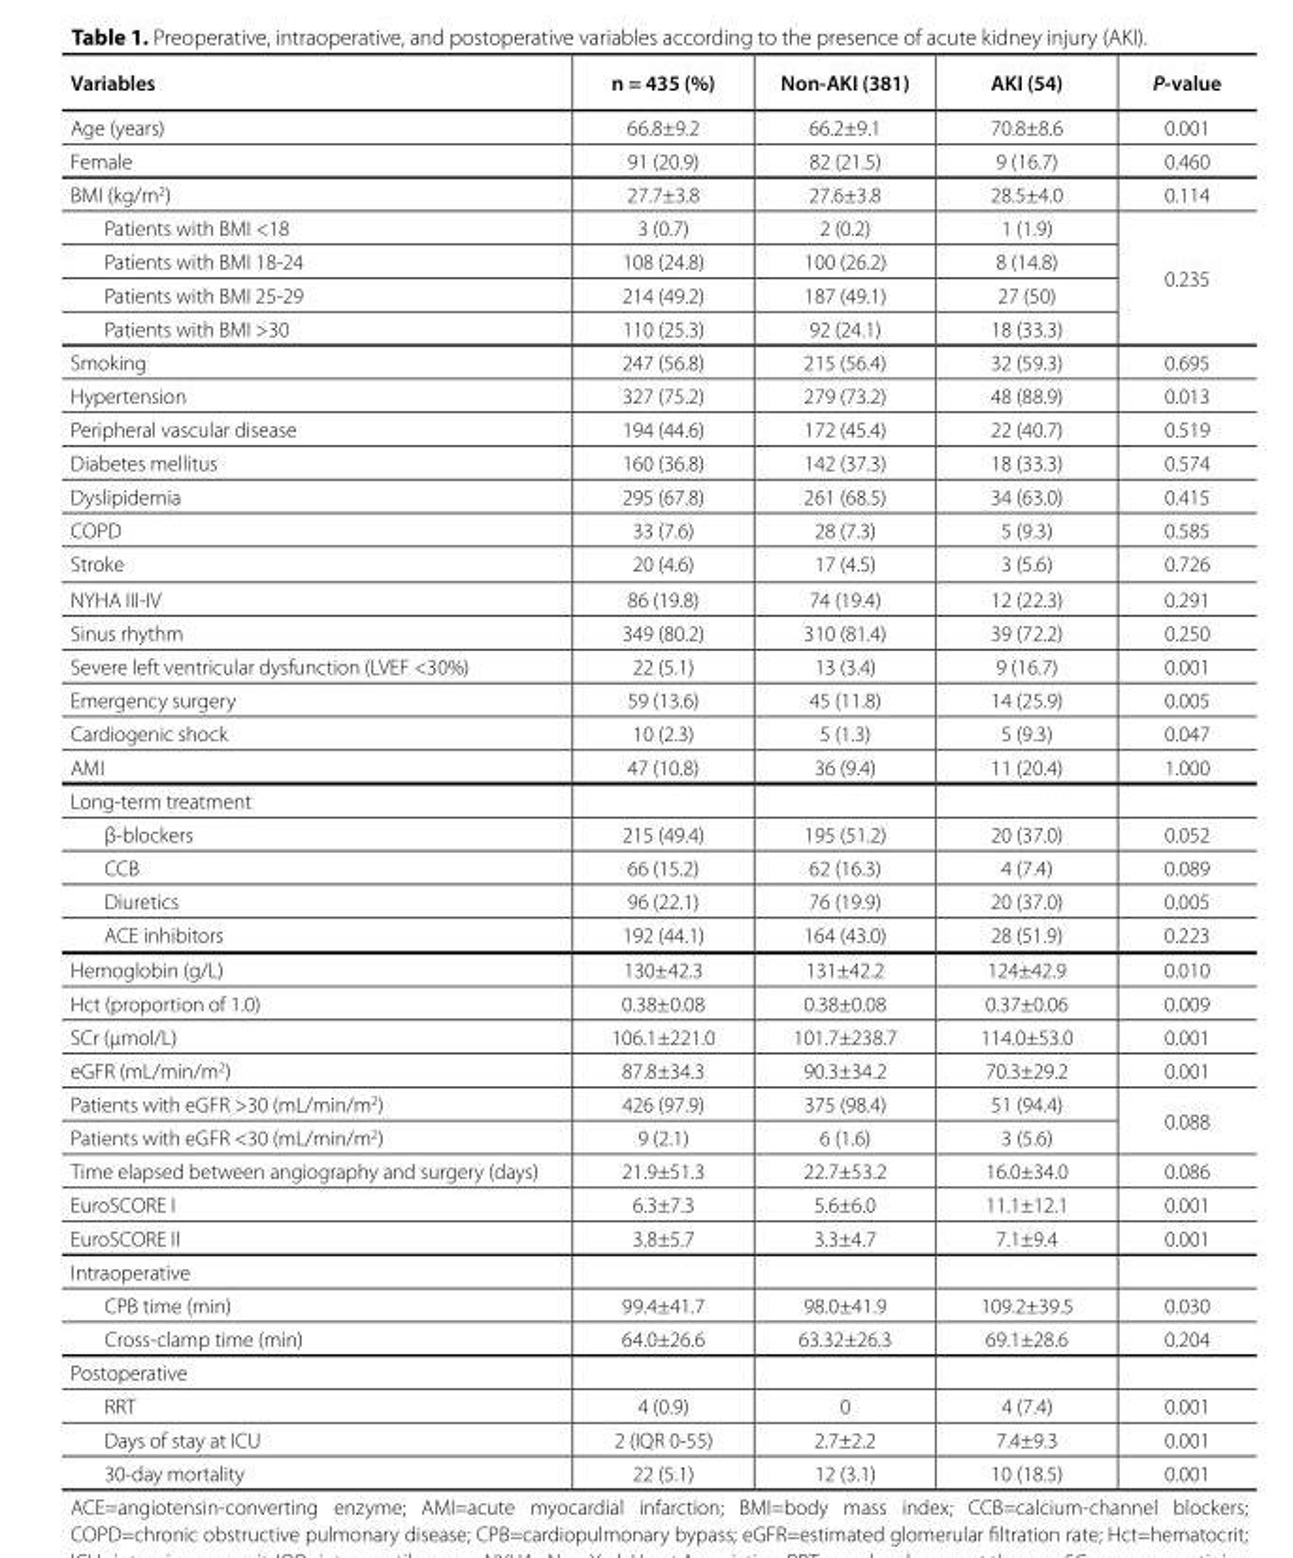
<table><thead><tr><td>Variables</td><td>n = 435 (%)</td><td>Non-AKI (381)</td><td>AKI (54)</td><td>P-value</td></tr></thead><tbody><tr><td>Age (years)</td><td>66.8±9.2</td><td>66.2±9.1</td><td>70.8±8.6</td><td>0.001</td></tr><tr><td>Female</td><td>91 (20.9)</td><td>82 (21.5)</td><td>9 (16.7)</td><td>0.460</td></tr><tr><td>BMI (kg/m<sup>2</sup>)</td><td>27.7±3.8</td><td>27.6±3.8</td><td>28.5±4.0</td><td>0.114</td></tr><tr><td>Patients with BMI &lt;18</td><td>3 (0.7)</td><td>2 (0.2)</td><td>1 (1.9)</td><td rowspan="4">0.235</td></tr><tr><td>Patients with BMI 18-24</td><td>108 (24.8)</td><td>100 (26.2)</td><td>8 (14.8)</td></tr><tr><td>Patients with BMI 25-29</td><td>214 (49.2)</td><td>187 (49.1)</td><td>27 (50)</td></tr><tr><td>Patients with BMI &gt;30</td><td>110 (25.3)</td><td>92 (24.1)</td><td>18 (33.3)</td></tr><tr><td>Smoking</td><td>247 (56.8)</td><td>215 (56.4)</td><td>32 (59.3)</td><td>0.695</td></tr><tr><td>Hypertension</td><td>327 (75.2)</td><td>279 (73.2)</td><td>48 (88.9)</td><td>0.013</td></tr><tr><td>Peripheral vascular disease</td><td>194 (44.6)</td><td>172 (45.4)</td><td>22 (40.7)</td><td>0.519</td></tr><tr><td>Diabetes mellitus</td><td>160 (36.8)</td><td>142 (37.3)</td><td>18 (33.3)</td><td>0.574</td></tr><tr><td>Dyslipidemia</td><td>295 (67.8)</td><td>261 (68.5)</td><td>34 (63.0)</td><td>0.415</td></tr><tr><td>COPD</td><td>33 (7.6)</td><td>28 (7.3)</td><td>5 (9.3)</td><td>0.585</td></tr><tr><td>Stroke</td><td>20 (4.6)</td><td>17 (4.5)</td><td>3 (5.6)</td><td>0.726</td></tr><tr><td>NYHA III-IV</td><td>86 (19.8)</td><td>74 (19.4)</td><td>12 (22.3)</td><td>0.291</td></tr><tr><td>Sinus rhythm</td><td>349 (80.2)</td><td>310 (81.4)</td><td>39 (72.2)</td><td>0.250</td></tr><tr><td>Severe left ventricular dysfunction (LVEF &lt;30%)</td><td>22 (5.1)</td><td>13 (3.4)</td><td>9 (16.7)</td><td>0.001</td></tr><tr><td>Emergency surgery</td><td>59 (13.6)</td><td>45 (11.8)</td><td>14 (25.9)</td><td>0.005</td></tr><tr><td>Cardiogenic shock</td><td>10 (2.3)</td><td>5 (1.3)</td><td>5 (9.3)</td><td>0.047</td></tr><tr><td>AMI</td><td>47 (10.8)</td><td>36 (9.4)</td><td>11 (20.4)</td><td>1.000</td></tr><tr><td colspan="5">Long-term treatment</td></tr><tr><td>β-blockers</td><td>215 (49.4)</td><td>195 (51.2)</td><td>20 (37.0)</td><td>0.052</td></tr><tr><td>CCB</td><td>66 (15.2)</td><td>62 (16.3)</td><td>4 (7.4)</td><td>0.089</td></tr><tr><td>Diuretics</td><td>96 (22.1)</td><td>76 (19.9)</td><td>20 (37.0)</td><td>0.005</td></tr><tr><td>ACE inhibitors</td><td>192 (44.1)</td><td>164 (43.0)</td><td>28 (51.9)</td><td>0.223</td></tr><tr><td>Hemoglobin (g/L)</td><td>130±42.3</td><td>131±42.2</td><td>124±42.9</td><td>0.010</td></tr><tr><td>Hct (proportion of 1.0)</td><td>0.38±0.08</td><td>0.38±0.08</td><td>0.37±0.06</td><td>0.009</td></tr><tr><td>SCr (μmol/L)</td><td>106.1±221.0</td><td>101.7±238.7</td><td>114.0±53.0</td><td>0.001</td></tr><tr><td>eGFR (mL/min/m<sup>2</sup>)</td><td>87.8±34.3</td><td>90.3±34.2</td><td>70.3±29.2</td><td>0.001</td></tr><tr><td>Patients with eGFR &gt;30 (mL/min/m<sup>2</sup>)</td><td>426 (97.9)</td><td>375 (98.4)</td><td>51 (94.4)</td><td rowspan="2">0.088</td></tr><tr><td>Patients with eGFR &lt;30 (mL/min/m<sup>2</sup>)</td><td>9 (2.1)</td><td>6 (1.6)</td><td>3 (5.6)</td></tr><tr><td>Time elapsed between angiography and surgery (days)</td><td>21.9±51.3</td><td>22.7±53.2</td><td>16.0±34.0</td><td>0.086</td></tr><tr><td>EuroSCORE I</td><td>6.3±7.3</td><td>5.6±6.0</td><td>11.1±12.1</td><td>0.001</td></tr><tr><td>EuroSCORE II</td><td>3.8±5.7</td><td>3.3±4.7</td><td>7.1±9.4</td><td>0.001</td></tr><tr><td colspan="5">Intraoperative</td></tr><tr><td>CPB time (min)</td><td>99.4±41.7</td><td>98.0±41.9</td><td>109.2±39.5</td><td>0.030</td></tr><tr><td>Cross-clamp time (min)</td><td>64.0±26.6</td><td>63.32±26.3</td><td>69.1±28.6</td><td>0.204</td></tr><tr><td colspan="5">Postoperative</td></tr><tr><td>RRT</td><td>4 (0.9)</td><td>0</td><td>4 (7.4)</td><td>0.001</td></tr><tr><td>Days of stay at ICU</td><td>2 (IQR 0-55)</td><td>2.7±2.2</td><td>7.4±9.3</td><td>0.001</td></tr><tr><td>30-day mortality</td><td>22 (5.1)</td><td>12 (3.1)</td><td>10 (18.5)</td><td>0.001</td></tr></tbody></table>